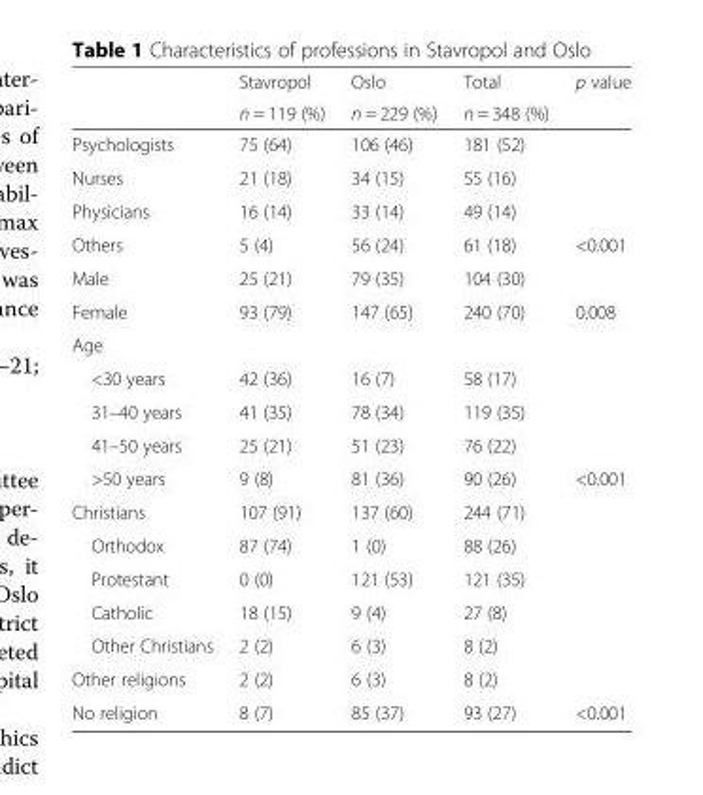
<table><thead><tr><td rowspan="2"></td><td rowspan="2">Stavropol n = 119 (%)</td><td rowspan="2">Oslo n = 229 (%)</td><td rowspan="2">Total n = 348 (%)</td><td rowspan="2">p value</td></tr><tr></tr></thead><tbody><tr><td>Psychologists</td><td>75 (64)</td><td>106 (46)</td><td>181 (52)</td><td></td></tr><tr><td>Nurses</td><td>21 (18)</td><td>34 (15)</td><td>55 (16)</td><td></td></tr><tr><td>Physicians</td><td>16 (14)</td><td>33 (14)</td><td>49 (14)</td><td></td></tr><tr><td>Others</td><td>5 (4)</td><td>56 (24)</td><td>61 (18)</td><td>&lt;0.001</td></tr><tr><td>Male</td><td>25 (21)</td><td>79 (35)</td><td>104 (30)</td><td></td></tr><tr><td>Female</td><td>93 (79)</td><td>147 (65)</td><td>240 (70)</td><td>0.008</td></tr><tr><td colspan="5">Age</td></tr><tr><td>&lt;30 years</td><td>42 (36)</td><td>16 (7)</td><td>58 (17)</td><td></td></tr><tr><td>31–40 years</td><td>41 (35)</td><td>78 (34)</td><td>119 (35)</td><td></td></tr><tr><td>41–50 years</td><td>25 (21)</td><td>51 (23)</td><td>76 (22)</td><td></td></tr><tr><td>&gt;50 years</td><td>9 (8)</td><td>81 (36)</td><td>90 (26)</td><td>&lt;0.001</td></tr><tr><td>Christians</td><td>107 (91)</td><td>137 (60)</td><td>244 (71)</td><td></td></tr><tr><td>Orthodox</td><td>87 (74)</td><td>1 (0)</td><td>88 (26)</td><td></td></tr><tr><td>Protestant</td><td>0 (0)</td><td>121 (53)</td><td>121 (35)</td><td></td></tr><tr><td>Catholic</td><td>18 (15)</td><td>9 (4)</td><td>27 (8)</td><td></td></tr><tr><td>Other Christians</td><td>2 (2)</td><td>6 (3)</td><td>8 (2)</td><td></td></tr><tr><td>Other religions</td><td>2 (2)</td><td>6 (3)</td><td>8 (2)</td><td></td></tr><tr><td>No religion</td><td>8 (7)</td><td>85 (37)</td><td>93 (27)</td><td>&lt;0.001</td></tr></tbody></table>